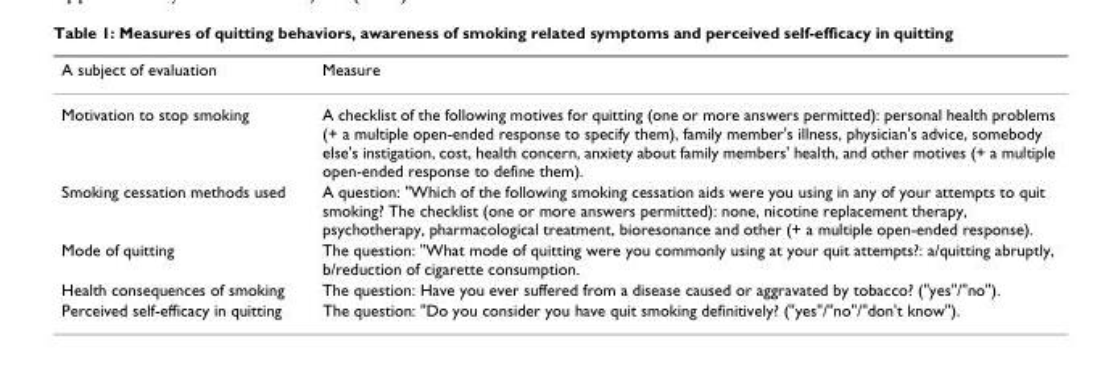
<table><thead><tr><td>A subject of evaluation</td><td>Measure</td></tr></thead><tbody><tr><td>Motivation to stop smoking</td><td>A checklist of the following motives for quitting (one or more answers permitted): personal health problems (+ a multiple open-ended response to specify them), family member&#x27;s illness, physician&#x27;s advice, somebody else&#x27;s instigation, cost, health concern, anxiety about family members&#x27; health, and other motives (+ a multiple open-ended response to define them).</td></tr><tr><td>Smoking cessation methods used</td><td>A question: &quot;Which of the following smoking cessation aids were you using in any of your attempts to quit smoking? The checklist (one or more answers permitted): none, nicotine replacement therapy, psychotherapy, pharmacological treatment, bioresonance and other (+ a multiple open-ended response).</td></tr><tr><td>Mode of quitting</td><td>The question: &quot;What mode of quitting were you commonly using at your quit attempts?: a/quitting abruptly, b/reduction of cigarette consumption.</td></tr><tr><td>Health consequences of smoking</td><td>The question: Have you ever suffered from a disease caused or aggravated by tobacco? (&quot;yes&quot;/&quot;no&quot;).</td></tr><tr><td>Perceived self-efficacy in quitting</td><td>The question: &quot;Do you consider you have quit smoking definitively? (&quot;yes&quot;/&quot;no&quot;/&quot;don&#x27;t know&quot;).</td></tr></tbody></table>